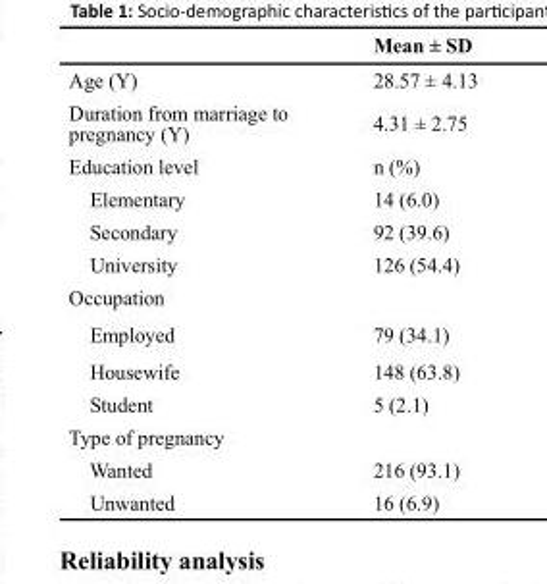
<table><tbody><tr><td>Age (Y)</td><td>28.57 ± 4.13</td></tr><tr><td>Duration from marriage to pregnancy (Y)</td><td>4.31 ± 2.75</td></tr><tr><td>Education level</td><td>n (%)</td></tr><tr><td>Elementary</td><td>14 (6.0)</td></tr><tr><td>Secondary</td><td>92 (39.6)</td></tr><tr><td>University</td><td>126 (54.4)</td></tr><tr><td colspan="2">Occupation</td></tr><tr><td>Employed</td><td>79 (34.1)</td></tr><tr><td>Housewife</td><td>148 (63.8)</td></tr><tr><td>Student</td><td>5 (2.1)</td></tr><tr><td colspan="2">Type of pregnancy</td></tr><tr><td>Wanted</td><td>216 (93.1)</td></tr><tr><td>Unwanted</td><td>16 (6.9)</td></tr></tbody></table>